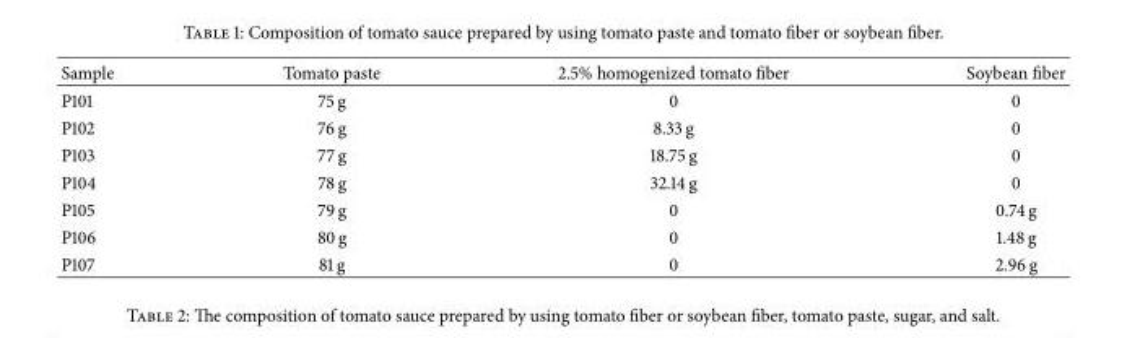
<table><thead><tr><td>Sample</td><td>Tomato paste</td><td>2.5% homogenized tomato fiber</td><td>Soybean fiber</td></tr></thead><tbody><tr><td>P101</td><td>75 g</td><td>0</td><td>0</td></tr><tr><td>P102</td><td>76 g</td><td>8.33 g</td><td>0</td></tr><tr><td>P103</td><td>77 g</td><td>18.75 g</td><td>0</td></tr><tr><td>P104</td><td>78 g</td><td>32.14 g</td><td>0</td></tr><tr><td>P105</td><td>79 g</td><td>0</td><td>0.74 g</td></tr><tr><td>P106</td><td>80 g</td><td>0</td><td>1.48 g</td></tr><tr><td>P107</td><td>81 g</td><td>0</td><td>2.96 g</td></tr></tbody></table>